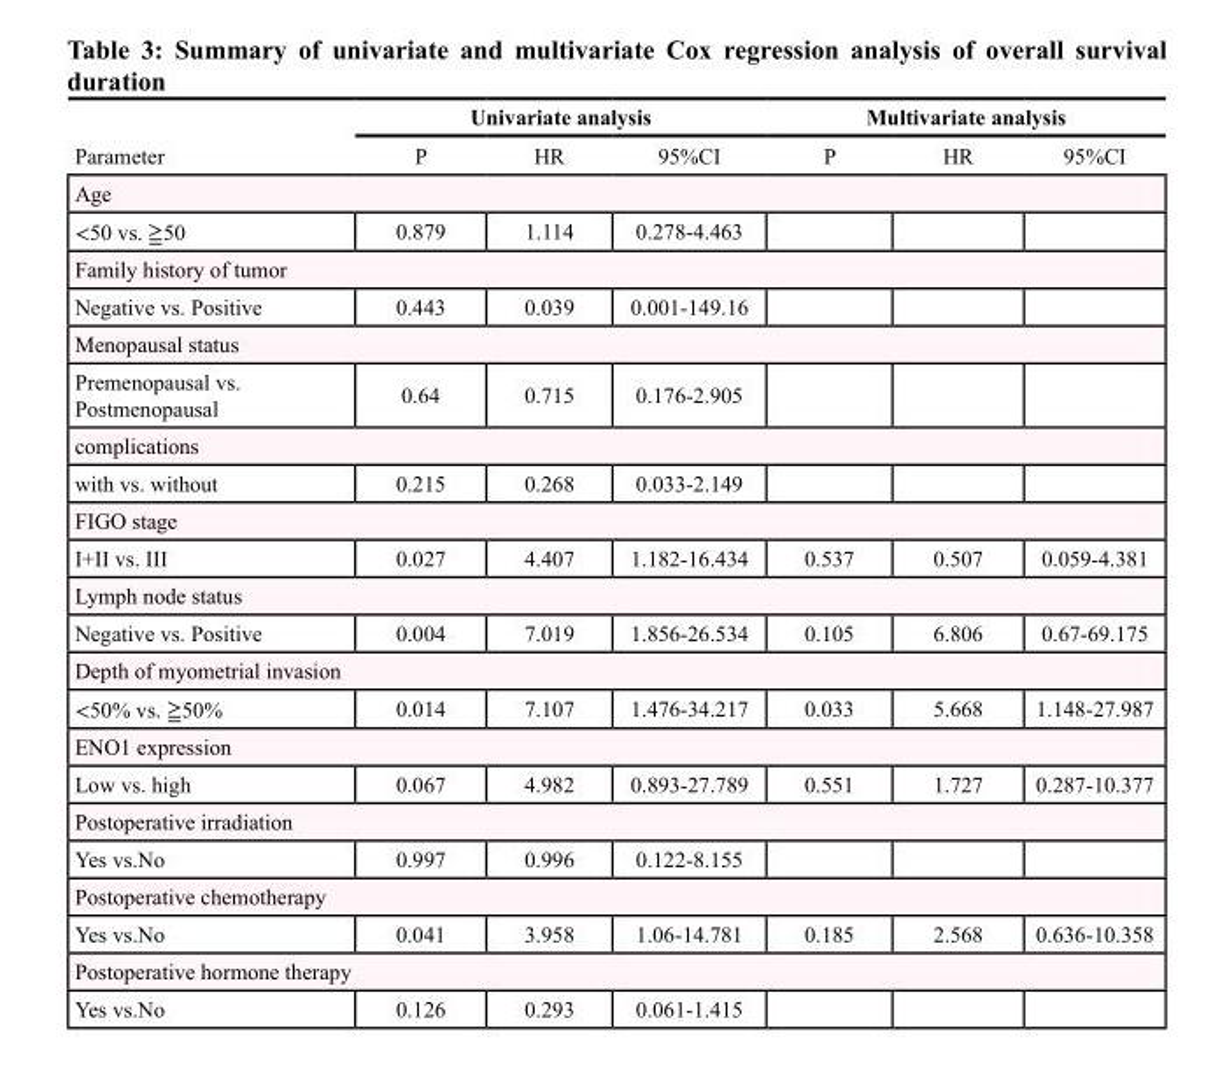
<table><thead><tr><td rowspan="2">duration Parameter</td><td colspan="3">Univariate analysis</td><td colspan="3">Multivariate analysis</td></tr><tr><td>P</td><td>HR</td><td>95%CI</td><td>P</td><td>HR</td><td>95%CI</td></tr></thead><tbody><tr><td colspan="7">Age</td></tr><tr><td>&lt;50 vs. ≧50</td><td>0.879</td><td>1.114</td><td>0.278-4.463</td><td></td><td></td><td></td></tr><tr><td colspan="7">Family history of tumor</td></tr><tr><td>Negative vs. Positive</td><td>0.443</td><td>0.039</td><td>0.001-149.16</td><td></td><td></td><td></td></tr><tr><td colspan="7">Menopausal status</td></tr><tr><td>Premenopausal vs. Postmenopausal</td><td>0.64</td><td>0.715</td><td>0.176-2.905</td><td></td><td></td><td></td></tr><tr><td colspan="7">complications</td></tr><tr><td>with vs. without</td><td>0.215</td><td>0.268</td><td>0.033-2.149</td><td></td><td></td><td></td></tr><tr><td colspan="7">FIGO stage</td></tr><tr><td>I+II vs. III</td><td>0.027</td><td>4.407</td><td>1.182-16.434</td><td>0.537</td><td>0.507</td><td>0.059-4.381</td></tr><tr><td colspan="7">Lymph node status</td></tr><tr><td>Negative vs. Positive</td><td>0.004</td><td>7.019</td><td>1.856-26.534</td><td>0.105</td><td>6.806</td><td>0.67-69.175</td></tr><tr><td colspan="7">Depth of myometrial invasion</td></tr><tr><td>&lt;50% vs. ≧50%</td><td>0.014</td><td>7.107</td><td>1.476-34.217</td><td>0.033</td><td>5.668</td><td>1.148-27.987</td></tr><tr><td colspan="7">ENO1 expression</td></tr><tr><td>Low vs. high</td><td>0.067</td><td>4.982</td><td>0.893-27.789</td><td>0.551</td><td>1.727</td><td>0.287-10.377</td></tr><tr><td colspan="7">Postoperative irradiation</td></tr><tr><td>Yes vs.No</td><td>0.997</td><td>0.996</td><td>0.122-8.155</td><td></td><td></td><td></td></tr><tr><td colspan="7">Postoperative chemotherapy</td></tr><tr><td>Yes vs.No</td><td>0.041</td><td>3.958</td><td>1.06-14.781</td><td>0.185</td><td>2.568</td><td>0.636-10.358</td></tr><tr><td colspan="7">Postoperative hormone therapy</td></tr><tr><td>Yes vs.No</td><td>0.126</td><td>0.293</td><td>0.061-1.415</td><td></td><td></td><td></td></tr></tbody></table>